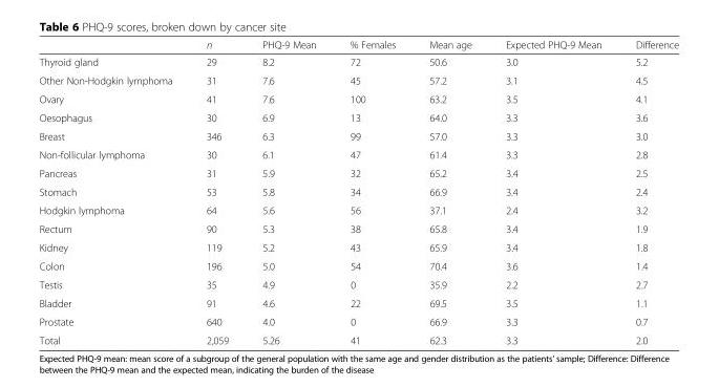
<table><thead><tr><td></td><td>n</td><td>PHQ-9 Mean</td><td>% Females</td><td>Mean age</td><td>Expected PHQ-9 Mean</td><td>Difference</td></tr></thead><tbody><tr><td>Thyroid gland</td><td>29</td><td>8.2</td><td>72</td><td>50.6</td><td>3.0</td><td>5.2</td></tr><tr><td>Other Non-Hodgkin lymphoma</td><td>31</td><td>7.6</td><td>45</td><td>57.2</td><td>3.1</td><td>4.5</td></tr><tr><td>Ovary</td><td>41</td><td>7.6</td><td>100</td><td>63.2</td><td>3.5</td><td>4.1</td></tr><tr><td>Oesophagus</td><td>30</td><td>6.9</td><td>13</td><td>64.0</td><td>3.3</td><td>3.6</td></tr><tr><td>Breast</td><td>346</td><td>6.3</td><td>99</td><td>57.0</td><td>3.3</td><td>3.0</td></tr><tr><td>Non-follicular lymphoma</td><td>30</td><td>6.1</td><td>47</td><td>61.4</td><td>3.3</td><td>2.8</td></tr><tr><td>Pancreas</td><td>31</td><td>5.9</td><td>32</td><td>65.2</td><td>3.4</td><td>2.5</td></tr><tr><td>Stomach</td><td>53</td><td>5.8</td><td>34</td><td>66.9</td><td>3.4</td><td>2.4</td></tr><tr><td>Hodgkin lymphoma</td><td>64</td><td>5.6</td><td>56</td><td>37.1</td><td>2.4</td><td>3.2</td></tr><tr><td>Rectum</td><td>90</td><td>5.3</td><td>38</td><td>65.8</td><td>3.4</td><td>1.9</td></tr><tr><td>Kidney</td><td>119</td><td>5.2</td><td>43</td><td>65.9</td><td>3.4</td><td>1.8</td></tr><tr><td>Colon</td><td>196</td><td>5.0</td><td>54</td><td>70.4</td><td>3.6</td><td>1.4</td></tr><tr><td>Testis</td><td>35</td><td>4.9</td><td>0</td><td>35.9</td><td>2.2</td><td>2.7</td></tr><tr><td>Bladder</td><td>91</td><td>4.6</td><td>22</td><td>69.5</td><td>3.5</td><td>1.1</td></tr><tr><td>Prostate</td><td>640</td><td>4.0</td><td>0</td><td>66.9</td><td>3.3</td><td>0.7</td></tr><tr><td>Total</td><td>2,059</td><td>5.26</td><td>41</td><td>62.3</td><td>3.3</td><td>2.0</td></tr></tbody></table>